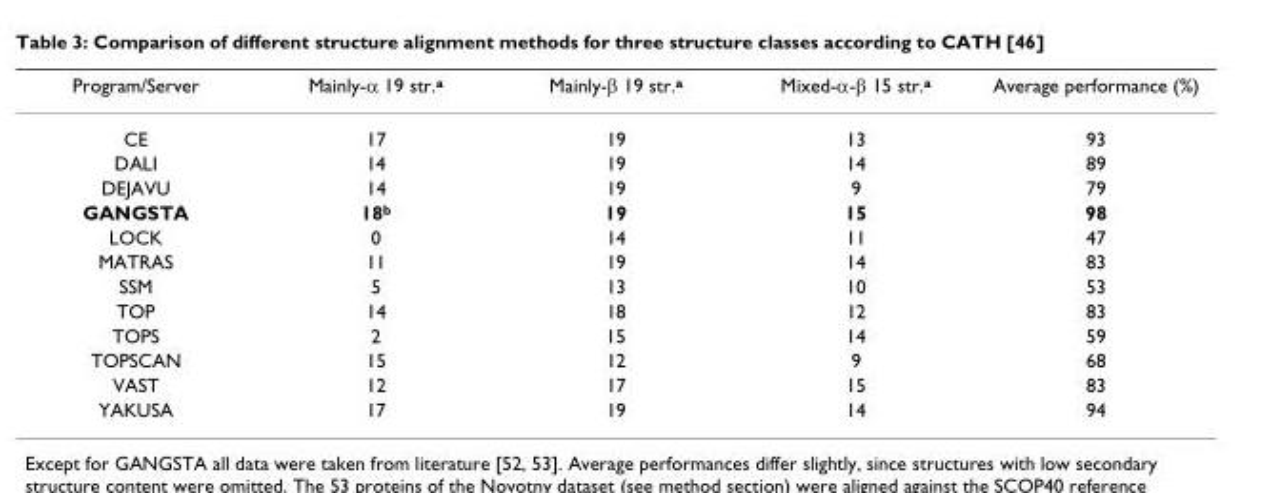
<table><thead><tr><td>Program/Server</td><td>Mainly-α 19 str.<sup>a</sup></td><td>Mainly-β 19 str.<sup>a</sup></td><td>Mixed-α-β 15 str.<sup>a</sup></td><td>Average performance (%)</td></tr></thead><tbody><tr><td>CE</td><td>17</td><td>19</td><td>13</td><td>93</td></tr><tr><td>DALI</td><td>14</td><td>19</td><td>14</td><td>89</td></tr><tr><td>DEJAVU</td><td>14</td><td>19</td><td>9</td><td>79</td></tr><tr><td>GANGSTA</td><td>18<sup>b</sup></td><td>19</td><td>15</td><td>98</td></tr><tr><td>LOCK</td><td>0</td><td>14</td><td>11</td><td>47</td></tr><tr><td>MATRAS</td><td>11</td><td>19</td><td>14</td><td>83</td></tr><tr><td>SSM</td><td>5</td><td>13</td><td>10</td><td>53</td></tr><tr><td>TOP</td><td>14</td><td>18</td><td>12</td><td>83</td></tr><tr><td>TOPS</td><td>2</td><td>15</td><td>14</td><td>59</td></tr><tr><td>TOPSCAN</td><td>15</td><td>12</td><td>9</td><td>68</td></tr><tr><td>VAST</td><td>12</td><td>17</td><td>15</td><td>83</td></tr><tr><td>YAKUSA</td><td>17</td><td>19</td><td>14</td><td>94</td></tr></tbody></table>